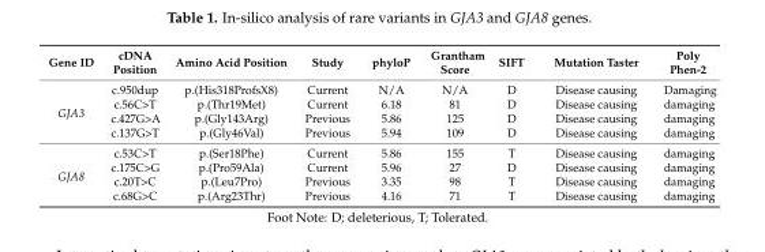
<table><thead><tr><td>Gene ID</td><td>cDNA Position</td><td>Amino Acid Position</td><td>Study</td><td>phyloP</td><td>Grantham Score</td><td>SIFT</td><td>Mutation Taster</td><td>Poly Phen-2</td></tr></thead><tbody><tr><td rowspan="4">GJA3</td><td>c.950dup</td><td>p.(His318ProfsX8)</td><td>Current</td><td>N/A</td><td>N/A</td><td>D</td><td>Disease causing</td><td>Damaging</td></tr><tr><td>c.56C&gt;T</td><td>p.(Thr19Met)</td><td>Current</td><td>6.18</td><td>81</td><td>D</td><td>Disease causing</td><td>damaging</td></tr><tr><td>c.427G&gt;A</td><td>p.(Gly143Arg)</td><td>Previous</td><td>5.86</td><td>125</td><td>D</td><td>Disease causing</td><td>damaging</td></tr><tr><td>c.137G&gt;T</td><td>p.(Gly46Val)</td><td>Previous</td><td>5.94</td><td>109</td><td>D</td><td>Disease causing</td><td>damaging</td></tr><tr><td rowspan="4">GJA8</td><td>c.53C&gt;T</td><td>p.(Ser18Phe)</td><td>Current</td><td>5.86</td><td>155</td><td>T</td><td>Disease causing</td><td>damaging</td></tr><tr><td>c.175C&gt;G</td><td>p.(Pro59Ala)</td><td>Current</td><td>5.96</td><td>27</td><td>D</td><td>Disease causing</td><td>damaging</td></tr><tr><td>c.20T&gt;C</td><td>p.(Leu7Pro)</td><td>Previous</td><td>3.35</td><td>98</td><td>T</td><td>Disease causing</td><td>damaging</td></tr><tr><td>c.68G&gt;C</td><td>p.(Arg23Thr)</td><td>Previous</td><td>4.16</td><td>71</td><td>T</td><td>Disease causing</td><td>damaging</td></tr></tbody></table>